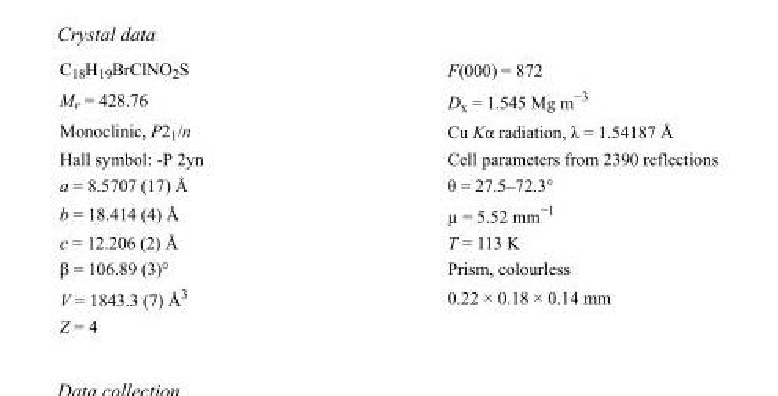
<table><tbody><tr><td>C<sub>18</sub>H<sub>19</sub>BrClNO<sub>2</sub>S</td><td>F(000) = 872</td></tr><tr><td>M<sub>r</sub> = 428.76</td><td>D<sub>x</sub> = 1.545 Mg m<sup>−3</sup></td></tr><tr><td>Monoclinic, P2<sub>1</sub>/n</td><td>Cu Kα radiation, λ = 1.54187 Å</td></tr><tr><td>Hall symbol: -P 2yn</td><td>Cell parameters from 2390 reflections</td></tr><tr><td>a = 8.5707 (17) Å</td><td>θ = 27.5–72.3°</td></tr><tr><td>b = 18.414 (4) Å</td><td>µ = 5.52 mm<sup>−1</sup></td></tr><tr><td>c = 12.206 (2) Å</td><td>T = 113 K</td></tr><tr><td>β = 106.89 (3)°</td><td>Prism, colourless</td></tr><tr><td>V = 1843.3 (7) Å<sup>3</sup></td><td>0.22 × 0.18 × 0.14 mm</td></tr><tr><td>Z = 4</td><td></td></tr></tbody></table>